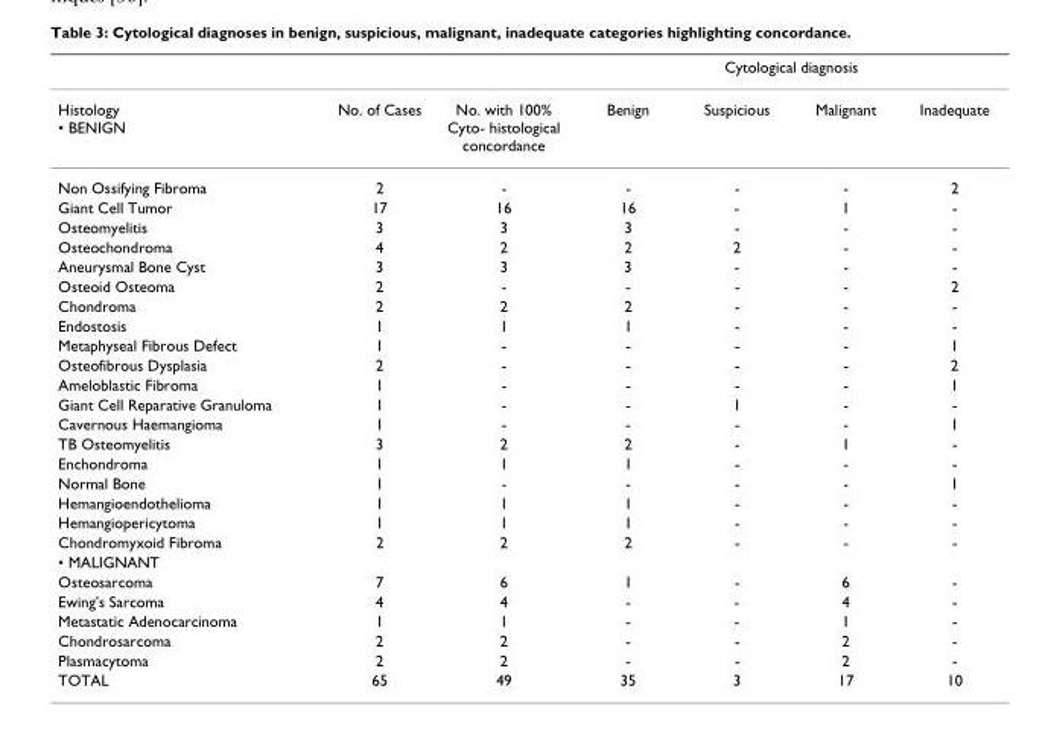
<table><thead><tr><td rowspan="2">Histology • BENIGN</td><td rowspan="2">No. of Cases</td><td rowspan="2">No. with 100% Cyto- histological concordance</td><td colspan="4">Cytological diagnosis</td></tr><tr><td>Benign</td><td>Suspicious</td><td>Malignant</td><td>Inadequate</td></tr></thead><tbody><tr><td>Non Ossifying Fibroma</td><td>2</td><td>-</td><td>-</td><td>-</td><td>-</td><td>2</td></tr><tr><td>Giant Cell Tumor</td><td>17</td><td>16</td><td>16</td><td>-</td><td>1</td><td>-</td></tr><tr><td>Osteomyelitis</td><td>3</td><td>3</td><td>3</td><td>-</td><td>-</td><td>-</td></tr><tr><td>Osteochondroma</td><td>4</td><td>2</td><td>2</td><td>2</td><td>-</td><td>-</td></tr><tr><td>Aneurysmal Bone Cyst</td><td>3</td><td>3</td><td>3</td><td>-</td><td>-</td><td>-</td></tr><tr><td>Osteoid Osteoma</td><td>2</td><td>-</td><td>-</td><td>-</td><td>-</td><td>2</td></tr><tr><td>Chondroma</td><td>2</td><td>2</td><td>2</td><td>-</td><td>-</td><td>-</td></tr><tr><td>Endostosis</td><td>1</td><td>1</td><td>1</td><td>-</td><td>-</td><td>-</td></tr><tr><td>Metaphyseal Fibrous Defect</td><td>1</td><td>-</td><td>-</td><td>-</td><td>-</td><td>1</td></tr><tr><td>Osteofibrous Dysplasia</td><td>2</td><td>-</td><td>-</td><td>-</td><td>-</td><td>2</td></tr><tr><td>Ameloblastic Fibroma</td><td>1</td><td>-</td><td>-</td><td>-</td><td>-</td><td>1</td></tr><tr><td>Giant Cell Reparative Granuloma</td><td>1</td><td>-</td><td>-</td><td>1</td><td>-</td><td>-</td></tr><tr><td>Cavernous Haemangioma</td><td>1</td><td>-</td><td>-</td><td>-</td><td>-</td><td>1</td></tr><tr><td>TB Osteomyelitis</td><td>3</td><td>2</td><td>2</td><td>-</td><td>1</td><td>-</td></tr><tr><td>Enchondroma</td><td>1</td><td>1</td><td>1</td><td>-</td><td>-</td><td>-</td></tr><tr><td>Normal Bone</td><td>1</td><td>-</td><td>-</td><td>-</td><td>-</td><td>1</td></tr><tr><td>Hemangioendothelioma</td><td>1</td><td>1</td><td>1</td><td>-</td><td>-</td><td>-</td></tr><tr><td>Hemangiopericytoma</td><td>1</td><td>1</td><td>1</td><td>-</td><td>-</td><td>-</td></tr><tr><td>Chondromyxoid Fibroma</td><td>2</td><td>2</td><td>2</td><td>-</td><td>-</td><td>-</td></tr><tr><td colspan="7">• MALIGNANT</td></tr><tr><td>Osteosarcoma</td><td>7</td><td>6</td><td>1</td><td>-</td><td>6</td><td>-</td></tr><tr><td>Ewing&#x27;s Sarcoma</td><td>4</td><td>4</td><td>-</td><td>-</td><td>4</td><td>-</td></tr><tr><td>Metastatic Adenocarcinoma</td><td>1</td><td>1</td><td>-</td><td>-</td><td>1</td><td>-</td></tr><tr><td>Chondrosarcoma</td><td>2</td><td>2</td><td>-</td><td>-</td><td>2</td><td>-</td></tr><tr><td>Plasmacytoma</td><td>2</td><td>2</td><td>-</td><td>-</td><td>2</td><td>-</td></tr><tr><td>TOTAL</td><td>65</td><td>49</td><td>35</td><td>3</td><td>17</td><td>10</td></tr></tbody></table>